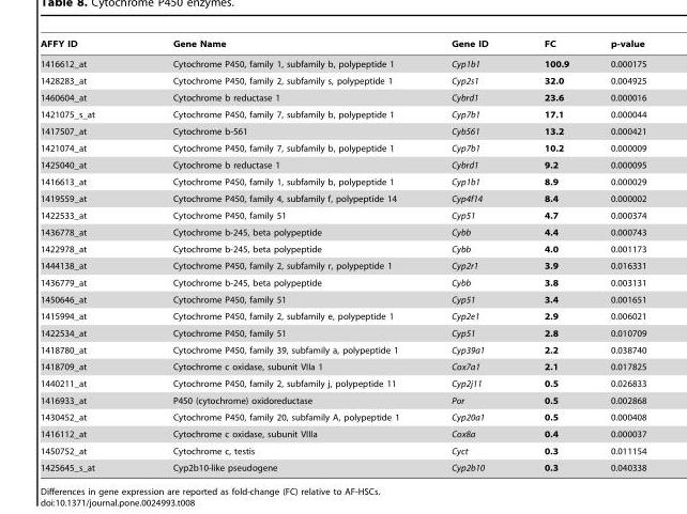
<table><thead><tr><td>AFFY ID</td><td>Gene Name</td><td>Gene ID</td><td>FC</td><td>p-value</td></tr></thead><tbody><tr><td>1416612_at</td><td>Cytochrome P450, family 1, subfamily b, polypeptide 1</td><td>Cyp1b1</td><td>100.9</td><td>0.000175</td></tr><tr><td>1428283_at</td><td>Cytochrome P450, family 2, subfamily s, polypeptide 1</td><td>Cyp2s1</td><td>32.0</td><td>0.004925</td></tr><tr><td>1460604_at</td><td>Cytochrome b reductase 1</td><td>Cybrd1</td><td>23.6</td><td>0.000016</td></tr><tr><td>1421075_s_at</td><td>Cytochrome P450, family 7, subfamily b, polypeptide 1</td><td>Cyp7b1</td><td>17.1</td><td>0.000044</td></tr><tr><td>1417507_at</td><td>Cytochrome b-561</td><td>Cyb561</td><td>13.2</td><td>0.000421</td></tr><tr><td>1421074_at</td><td>Cytochrome P450, family 7, subfamily b, polypeptide 1</td><td>Cyp7b1</td><td>10.2</td><td>0.000009</td></tr><tr><td>1425040_at</td><td>Cytochrome b reductase 1</td><td>Cybrd1</td><td>9.2</td><td>0.000095</td></tr><tr><td>1416613_at</td><td>Cytochrome P450, family 1, subfamily b, polypeptide 1</td><td>Cyp1b1</td><td>8.9</td><td>0.000029</td></tr><tr><td>1419559_at</td><td>Cytochrome P450, family 4, subfamily f, polypeptide 14</td><td>Cyp4f14</td><td>8.4</td><td>0.000002</td></tr><tr><td>1422533_at</td><td>Cytochrome P450, family 51</td><td>Cyp51</td><td>4.7</td><td>0.000374</td></tr><tr><td>1436778_at</td><td>Cytochrome b-245, beta polypeptide</td><td>Cybb</td><td>4.4</td><td>0.000743</td></tr><tr><td>1422978_at</td><td>Cytochrome b-245, beta polypeptide</td><td>Cybb</td><td>4.0</td><td>0.001173</td></tr><tr><td>1444138_at</td><td>Cytochrome P450, family 2, subfamily r, polypeptide 1</td><td>Cyp2r1</td><td>3.9</td><td>0.016331</td></tr><tr><td>1436779_at</td><td>Cytochrome b-245, beta polypeptide</td><td>Cybb</td><td>3.8</td><td>0.003131</td></tr><tr><td>1450646_at</td><td>Cytochrome P450, family 51</td><td>Cyp51</td><td>3.4</td><td>0.001651</td></tr><tr><td>1415994_at</td><td>Cytochrome P450, family 2, subfamily e, polypeptide 1</td><td>Cyp2e1</td><td>2.9</td><td>0.006021</td></tr><tr><td>1422534_at</td><td>Cytochrome P450, family 51</td><td>Cyp51</td><td>2.8</td><td>0.010709</td></tr><tr><td>1418780_at</td><td>Cytochrome P450, family 39, subfamily a, polypeptide 1</td><td>Cyp39a1</td><td>2.2</td><td>0.038740</td></tr><tr><td>1418709_at</td><td>Cytochrome c oxidase, subunit VIIa 1</td><td>Cox7a1</td><td>2.1</td><td>0.017825</td></tr><tr><td>1440211_at</td><td>Cytochrome P450, family 2, subfamily j, polypeptide 11</td><td>Cyp2j11</td><td>0.5</td><td>0.026833</td></tr><tr><td>1416933_at</td><td>P450 (cytochrome) oxidoreductase</td><td>Por</td><td>0.5</td><td>0.002868</td></tr><tr><td>1430452_at</td><td>Cytochrome P450, family 20, subfamily A, polypeptide 1</td><td>Cyp20a1</td><td>0.5</td><td>0.000408</td></tr><tr><td>1416112_at</td><td>Cytochrome c oxidase, subunit VIIIa</td><td>Cox8a</td><td>0.4</td><td>0.000037</td></tr><tr><td>1450752_at</td><td>Cytochrome c, testis</td><td>Cyct</td><td>0.3</td><td>0.011154</td></tr><tr><td>1425645_s_at</td><td>Cyp2b10-like pseudogene</td><td>Cyp2b10</td><td>0.3</td><td>0.040338</td></tr></tbody></table>